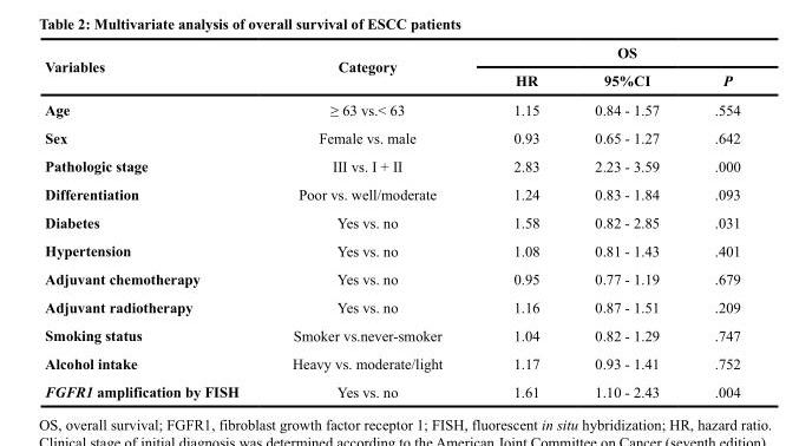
<table><thead><tr><td rowspan="2">Variables</td><td rowspan="2">Category</td><td colspan="3">OS</td></tr><tr><td>HR</td><td>95%CI</td><td>P</td></tr></thead><tbody><tr><td>Age</td><td>≥ 63 vs.&lt; 63</td><td>1.15</td><td>0.84 - 1.57</td><td>.554</td></tr><tr><td>Sex</td><td>Female vs. male</td><td>0.93</td><td>0.65 - 1.27</td><td>.642</td></tr><tr><td>Pathologic stage</td><td>III vs. I + II</td><td>2.83</td><td>2.23 - 3.59</td><td>.000</td></tr><tr><td>Differentiation</td><td>Poor vs. well/moderate</td><td>1.24</td><td>0.83 - 1.84</td><td>.093</td></tr><tr><td>Diabetes</td><td>Yes vs. no</td><td>1.58</td><td>0.82 - 2.85</td><td>.031</td></tr><tr><td>Hypertension</td><td>Yes vs. no</td><td>1.08</td><td>0.81 - 1.43</td><td>.401</td></tr><tr><td>Adjuvant chemotherapy</td><td>Yes vs. no</td><td>0.95</td><td>0.77 - 1.19</td><td>.679</td></tr><tr><td>Adjuvant radiotherapy</td><td>Yes vs. no</td><td>1.16</td><td>0.87 - 1.51</td><td>.209</td></tr><tr><td>Smoking status</td><td>Smoker vs.never-smoker</td><td>1.04</td><td>0.82 - 1.29</td><td>.747</td></tr><tr><td>Alcohol intake</td><td>Heavy vs. moderate/light</td><td>1.17</td><td>0.93 - 1.41</td><td>.752</td></tr><tr><td>FGFR1 amplification by FISH</td><td>Yes vs. no</td><td>1.61</td><td>1.10 - 2.43</td><td>.004</td></tr></tbody></table>